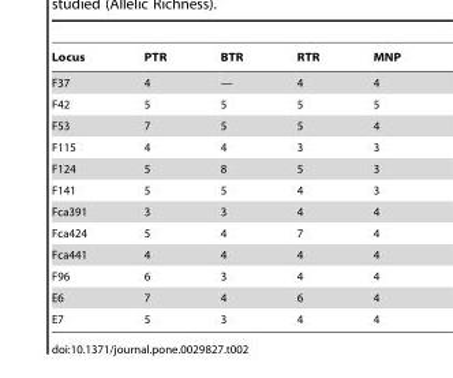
<table><thead><tr><td>Locus</td><td>PTR</td><td>BTR</td><td>RTR</td><td>MNP</td></tr></thead><tbody><tr><td>F37</td><td>4</td><td>—</td><td>4</td><td>4</td></tr><tr><td>F42</td><td>5</td><td>5</td><td>5</td><td>5</td></tr><tr><td>F53</td><td>7</td><td>5</td><td>5</td><td>4</td></tr><tr><td>F115</td><td>4</td><td>4</td><td>3</td><td>3</td></tr><tr><td>F124</td><td>5</td><td>8</td><td>5</td><td>3</td></tr><tr><td>F141</td><td>5</td><td>5</td><td>4</td><td>3</td></tr><tr><td>Fca391</td><td>3</td><td>3</td><td>4</td><td>4</td></tr><tr><td>Fca424</td><td>5</td><td>4</td><td>7</td><td>4</td></tr><tr><td>Fca441</td><td>4</td><td>4</td><td>4</td><td>4</td></tr><tr><td>F96</td><td>6</td><td>3</td><td>4</td><td>4</td></tr><tr><td>E6</td><td>7</td><td>4</td><td>6</td><td>4</td></tr><tr><td>E7</td><td>5</td><td>3</td><td>4</td><td>4</td></tr></tbody></table>